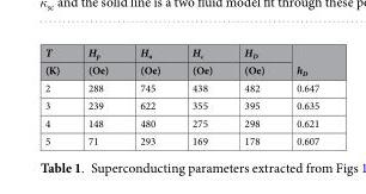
<table><thead><tr><td rowspan="2">T (K)</td><td rowspan="2">H<sub>p</sub> (Oe)</td><td rowspan="2">H<sub>u</sub> (Oe)</td><td rowspan="2">H<sub>c</sub> (Oe)</td><td rowspan="2">HD (Oe)</td><td rowspan="2">hD</td></tr><tr></tr></thead><tbody><tr><td>2</td><td>288</td><td>745</td><td>438</td><td>482</td><td>0.647</td></tr><tr><td>3</td><td>239</td><td>622</td><td>355</td><td>395</td><td>0.635</td></tr><tr><td>4</td><td>148</td><td>480</td><td>275</td><td>298</td><td>0.621</td></tr><tr><td>5</td><td>71</td><td>293</td><td>169</td><td>178</td><td>0.607</td></tr></tbody></table>